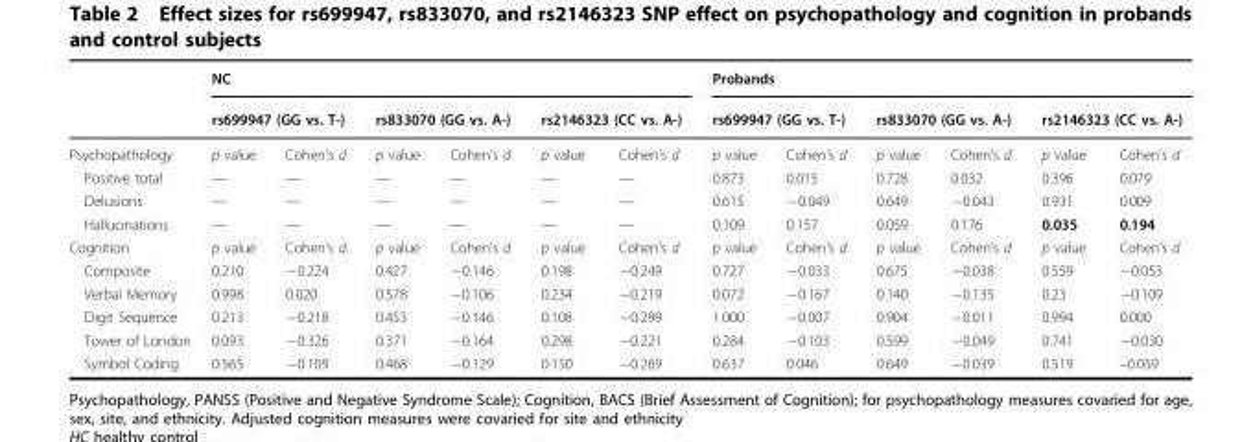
<table><thead><tr><td rowspan="3">Psychopathology</td><td colspan="6">NC</td><td colspan="6">Probands</td></tr><tr><td colspan="2">rs699947 (GG vs. T-)</td><td colspan="2">rs833070 (GG vs. A-)</td><td colspan="2">rs2146323 (CC vs. A-)</td><td colspan="2">rs699947 (GG vs. T-)</td><td colspan="2">rs833070 (GG vs. A-)</td><td colspan="2">rs2146323 (CC vs. A-)</td></tr><tr><td>p value</td><td>Cohen’s d</td><td>p value</td><td>Cohen’s d</td><td>p value</td><td>Cohen’s d</td><td>p value</td><td>Cohen’s d</td><td>p value</td><td>Cohen’s d</td><td>p value</td><td>Cohen’s d</td></tr></thead><tbody><tr><td>Positive total</td><td>—</td><td>—</td><td>—</td><td>—</td><td>—</td><td>—</td><td>0.873</td><td>0.015</td><td>0.728</td><td>0.032</td><td>0.396</td><td>0.079</td></tr><tr><td>Delusions</td><td>—</td><td>—</td><td>—</td><td>—</td><td>—</td><td>—</td><td>0.615</td><td>−0.049</td><td>0.649</td><td>−0.043</td><td>0.931</td><td>0.009</td></tr><tr><td>Hallucinations</td><td>—</td><td>—</td><td>—</td><td>—</td><td>—</td><td>—</td><td>0.109</td><td>0.157</td><td>0.059</td><td>0.176</td><td>0.035</td><td>0.194</td></tr><tr><td>Cognition</td><td>p value</td><td>Cohen’s d</td><td>p value</td><td>Cohen’s d</td><td>p value</td><td>Cohen’s d</td><td>p value</td><td>Cohen’s d</td><td>p value</td><td>Cohen’s d</td><td>p value</td><td>Cohen’s d</td></tr><tr><td>Composite</td><td>0.210</td><td>−0.224</td><td>0.427</td><td>−0.146</td><td>0.198</td><td>−0.249</td><td>0.727</td><td>−0.033</td><td>0.675</td><td>−0.038</td><td>0.559</td><td>−0.053</td></tr><tr><td>Verbal Memory</td><td>0.998</td><td>0.020</td><td>0.578</td><td>−0.106</td><td>0.234</td><td>−0.219</td><td>0.072</td><td>−0.167</td><td>0.140</td><td>−0.135</td><td>0.23</td><td>−0.109</td></tr><tr><td>Digit Sequence</td><td>0.213</td><td>−0.218</td><td>0.453</td><td>−0.146</td><td>0.108</td><td>−0.299</td><td>1.000</td><td>−0.007</td><td>0.904</td><td>−0.011</td><td>0.994</td><td>0.000</td></tr><tr><td>Tower of London</td><td>0.093</td><td>−0.326</td><td>0.371</td><td>−0.164</td><td>0.298</td><td>−0.221</td><td>0.284</td><td>−0.103</td><td>0.599</td><td>−0.049</td><td>0.741</td><td>−0.030</td></tr><tr><td>Symbol Coding</td><td>0.565</td><td>−0.109</td><td>0.468</td><td>−0.129</td><td>0.150</td><td>−0.269</td><td>0.637</td><td>0.046</td><td>0.649</td><td>−0.039</td><td>0.519</td><td>–0.059</td></tr></tbody></table>